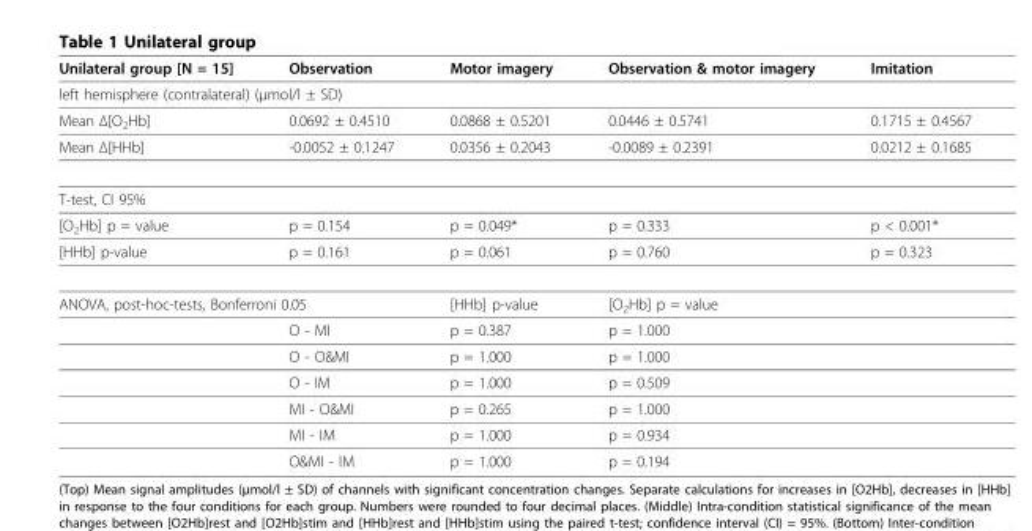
<table><thead><tr><td>Unilateral group [N = 15]</td><td>Observation</td><td>Motor imagery</td><td>Observation &amp; motor imagery</td><td>Imitation</td></tr></thead><tbody><tr><td colspan="5">left hemisphere (contralateral) (μmol/l ± SD)</td></tr><tr><td>Mean Δ[O2Hb]</td><td>0.0692 ± 0.4510</td><td>0.0868 ± 0.5201</td><td>0.0446 ± 0.5741</td><td>0.1715 ± 0.4567</td></tr><tr><td>Mean Δ[HHb]</td><td>-0.0052 ± 0.1247</td><td>0.0356 ± 0.2043</td><td>-0.0089 ± 0.2391</td><td>0.0212 ± 0.1685</td></tr><tr><td colspan="5">T-test, CI 95%</td></tr><tr><td>[O2Hb] p = value</td><td>p = 0.154</td><td>p = 0.049*</td><td>p = 0.333</td><td>p &lt; 0.001*</td></tr><tr><td>[HHb] p-value</td><td>p = 0.161</td><td>p = 0.061</td><td>p = 0.760</td><td>p = 0.323</td></tr><tr><td colspan="2">ANOVA, post-hoc-tests, Bonferroni 0.05</td><td>[HHb] p-value</td><td>[O2Hb] p = value</td><td></td></tr><tr><td></td><td>O - MI</td><td>p = 0.387</td><td>p = 1.000</td><td></td></tr><tr><td></td><td>O - O&amp;MI</td><td>p = 1.000</td><td>p = 1.000</td><td></td></tr><tr><td></td><td>O - IM</td><td>p = 1.000</td><td>p = 0.509</td><td></td></tr><tr><td></td><td>MI - O&amp;MI</td><td>p = 0.265</td><td>p = 1.000</td><td></td></tr><tr><td></td><td>MI - IM</td><td>p = 1.000</td><td>p = 0.934</td><td></td></tr><tr><td></td><td>O&amp;MI - IM</td><td>p = 1.000</td><td>p = 0.194</td><td></td></tr></tbody></table>